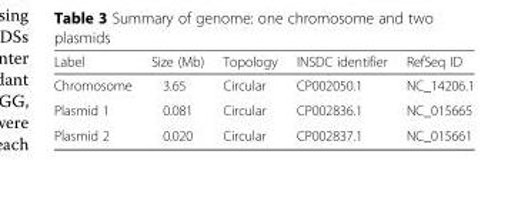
<table><thead><tr><td>Label</td><td>Size (Mb)</td><td>Topology</td><td>INSDC identifier</td><td>RefSeq ID</td></tr></thead><tbody><tr><td>Chromosome</td><td>3.65</td><td>Circular</td><td>CP002050.1</td><td>NC_14206.1</td></tr><tr><td>Plasmid 1</td><td>0.081</td><td>Circular</td><td>CP002836.1</td><td>NC_015665</td></tr><tr><td>Plasmid 2</td><td>0.020</td><td>Circular</td><td>CP002837.1</td><td>NC_015661</td></tr></tbody></table>